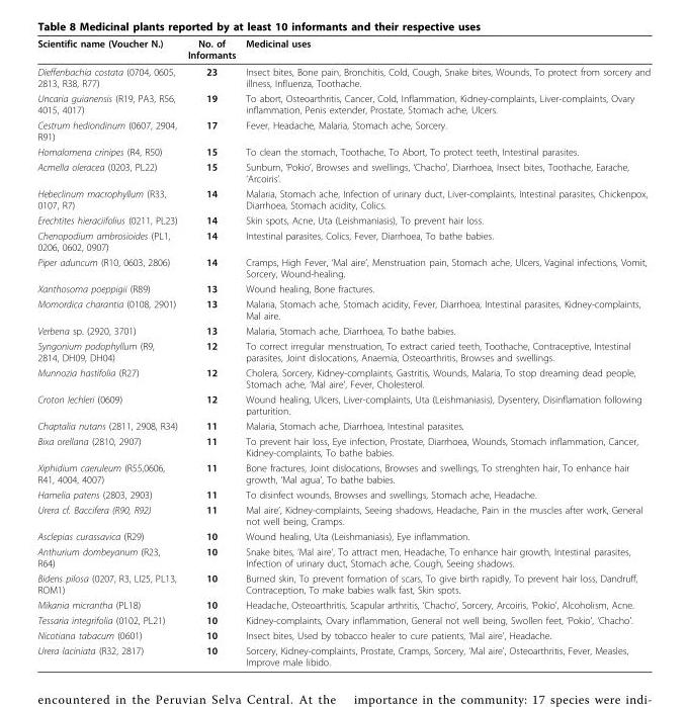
<table><thead><tr><td>Scientific name (Voucher N.)</td><td>No. of Informants</td><td>Medicinal uses</td></tr></thead><tbody><tr><td>Dieffenbachia costata (0704, 0605, 2813, R38, R77)</td><td>23</td><td>Insect bites, Bone pain, Bronchitis, Cold, Cough, Snake bites, Wounds, To protect from sorcery and illness, Influenza, Toothache.</td></tr><tr><td>Uncaria guianensis (R19, PA3, R56, 4015, 4017)</td><td>19</td><td>To abort, Osteoarthritis, Cancer, Cold, Inflammation, Kidney-complaints, Liver-complaints, Ovary inflammation, Penis extender, Prostate, Stomach ache, Ulcers.</td></tr><tr><td>Cestrum hediondinum (0607, 2904, R91)</td><td>17</td><td>Fever, Headache, Malaria, Stomach ache, Sorcery.</td></tr><tr><td>Homalomena crinipes (R4, R50)</td><td>15</td><td>To clean the stomach, Toothache, To Abort, To protect teeth, Intestinal parasites.</td></tr><tr><td>Acmella oleracea (0203, PL22)</td><td>15</td><td>Sunburn, ‘Pokio’, Browses and swellings, ‘Chacho’, Diarrhoea, Insect bites, Toothache, Earache, ‘Arcoiris’.</td></tr><tr><td>Hebeclinum macrophyllum (R33, 0107, R7)</td><td>14</td><td>Malaria, Stomach ache, Infection of urinary duct, Liver-complaints, Intestinal parasites, Chickenpox, Diarrhoea, Stomach acidity, Colics.</td></tr><tr><td>Erechtites hieraciifolius (0211, PL23)</td><td>14</td><td>Skin spots, Acne, Uta (Leishmaniasis), To prevent hair loss.</td></tr><tr><td>Chenopodium ambrosioides (PL1, 0206, 0602, 0907)</td><td>14</td><td>Intestinal parasites, Colics, Fever, Diarrhoea, To bathe babies.</td></tr><tr><td>Piper aduncum (R10, 0603, 2806)</td><td>14</td><td>Cramps, High Fever, ‘Mal aire’, Menstruation pain, Stomach ache, Ulcers, Vaginal infections, Vomit, Sorcery, Wound-healing.</td></tr><tr><td>Xanthosoma poeppigii (R89)</td><td>13</td><td>Wound healing, Bone fractures.</td></tr><tr><td>Momordica charantia (0108, 2901)</td><td>13</td><td>Malaria, Stomach ache, Stomach acidity, Fever, Diarrhoea, Intestinal parasites, Kidney-complaints, Mal aire.</td></tr><tr><td>Verbena sp. (2920, 3701)</td><td>13</td><td>Malaria, Stomach ache, Diarrhoea, To bathe babies.</td></tr><tr><td>Syngonium podophyllum (R9, 2814, DH09, DH04)</td><td>12</td><td>To correct irregular menstruation, To extract caried teeth, Toothache, Contraceptive, Intestinal parasites, Joint dislocations, Anaemia, Osteoarthritis, Browses and swellings.</td></tr><tr><td>Munnozia hastifolia (R27)</td><td>12</td><td>Cholera, Sorcery, Kidney-complaints, Gastritis, Wounds, Malaria, To stop dreaming dead people, Stomach ache, ‘Mal aire’, Fever, Cholesterol.</td></tr><tr><td>Croton lechleri (0609)</td><td>12</td><td>Wound healing, Ulcers, Liver-complaints, Uta (Leishmaniasis), Dysentery, Disinflamation following parturition.</td></tr><tr><td>Chaptalia nutans (2811, 2908, R34)</td><td>11</td><td>Malaria, Stomach ache, Diarrhoea, Intestinal parasites.</td></tr><tr><td>Bixa orellana (2810, 2907)</td><td>11</td><td>To prevent hair loss, Eye infection, Prostate, Diarrhoea, Wounds, Stomach inflammation, Cancer, Kidney-complaints, To bathe babies.</td></tr><tr><td>Xiphidium caeruleum (R55,0606, R41, 4004, 4007)</td><td>11</td><td>Bone fractures, Joint dislocations, Browses and swellings, To strenghten hair, To enhance hair growth, ‘Mal agua’, To bathe babies.</td></tr><tr><td>Hamelia patens (2803, 2903)</td><td>11</td><td>To disinfect wounds, Browses and swellings, Stomach ache, Headache.</td></tr><tr><td>Urera cf. Baccifera (R90, R92)</td><td>11</td><td>Mal aire’, Kidney-complaints, Seeing shadows, Headache, Pain in the muscles after work, General not well being, Cramps.</td></tr><tr><td>Asclepias curassavica (R29)</td><td>10</td><td>Wound healing, Uta (Leishmaniasis), Eye inflammation.</td></tr><tr><td>Anthurium dombeyanum (R23, R64)</td><td>10</td><td>Snake bites, ‘Mal aire’, To attract men, Headache, To enhance hair growth, Intestinal parasites, Infection of urinary duct, Stomach ache, Cough, Seeing shadows.</td></tr><tr><td>Bidens pilosa (0207, R3, LI25, PL13, ROM1)</td><td>10</td><td>Burned skin, To prevent formation of scars, To give birth rapidly, To prevent hair loss, Dandruff, Contraception, To make babies walk fast, Skin spots.</td></tr><tr><td>Mikania micrantha (PL18)</td><td>10</td><td>Headache, Osteoarthritis, Scapular arthritis, ‘Chacho’, Sorcery, Arcoiris, ‘Pokio’, Alcoholism, Acne.</td></tr><tr><td>Tessaria integrifolia (0102, PL21)</td><td>10</td><td>Kidney-complaints, Ovary inflammation, General not well being, Swollen feet, ‘Pokio’, ‘Chacho’.</td></tr><tr><td>Nicotiana tabacum (0601)</td><td>10</td><td>Insect bites, Used by tobacco healer to cure patients, ‘Mal aire’, Headache.</td></tr><tr><td>Urera laciniata (R32, 2817)</td><td>10</td><td>Sorcery, Kidney-complaints, Prostate, Cramps, Sorcery, ‘Mal aire’, Osteoarthritis, Fever, Measles, Improve male libido.</td></tr></tbody></table>